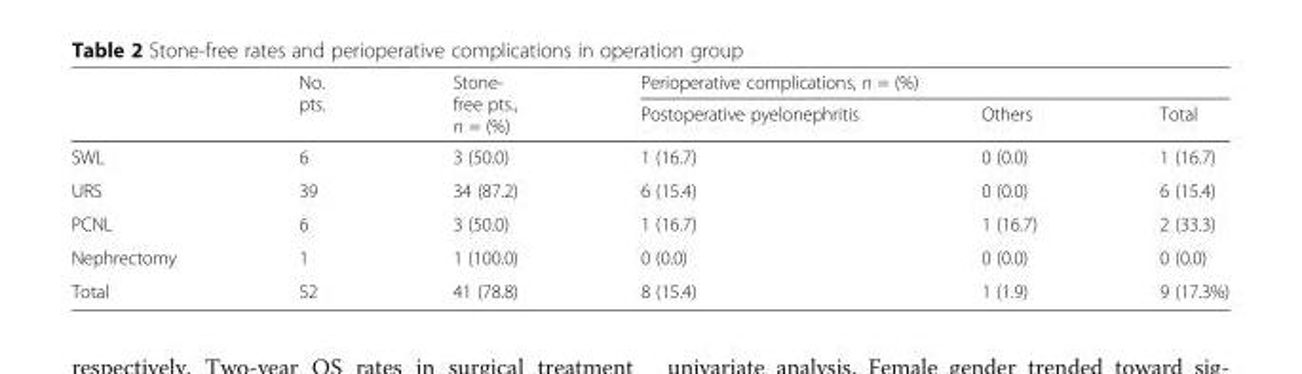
<table><thead><tr><td rowspan="2"></td><td rowspan="2">No. pts.</td><td rowspan="2">Stone- free pts., n = (%)</td><td colspan="3">Perioperative complications, n = (%)</td></tr><tr><td>Postoperative pyelonephritis</td><td>Others</td><td>Total</td></tr></thead><tbody><tr><td>SWL</td><td>6</td><td>3 (50.0)</td><td>1 (16.7)</td><td>0 (0.0)</td><td>1 (16.7)</td></tr><tr><td>URS</td><td>39</td><td>34 (87.2)</td><td>6 (15.4)</td><td>0 (0.0)</td><td>6 (15.4)</td></tr><tr><td>PCNL</td><td>6</td><td>3 (50.0)</td><td>1 (16.7)</td><td>1 (16.7)</td><td>2 (33.3)</td></tr><tr><td>Nephrectomy</td><td>1</td><td>1 (100.0)</td><td>0 (0.0)</td><td>0 (0.0)</td><td>0 (0.0)</td></tr><tr><td>Total</td><td>52</td><td>41 (78.8)</td><td>8 (15.4)</td><td>1 (1.9)</td><td>9 (17.3%)</td></tr></tbody></table>